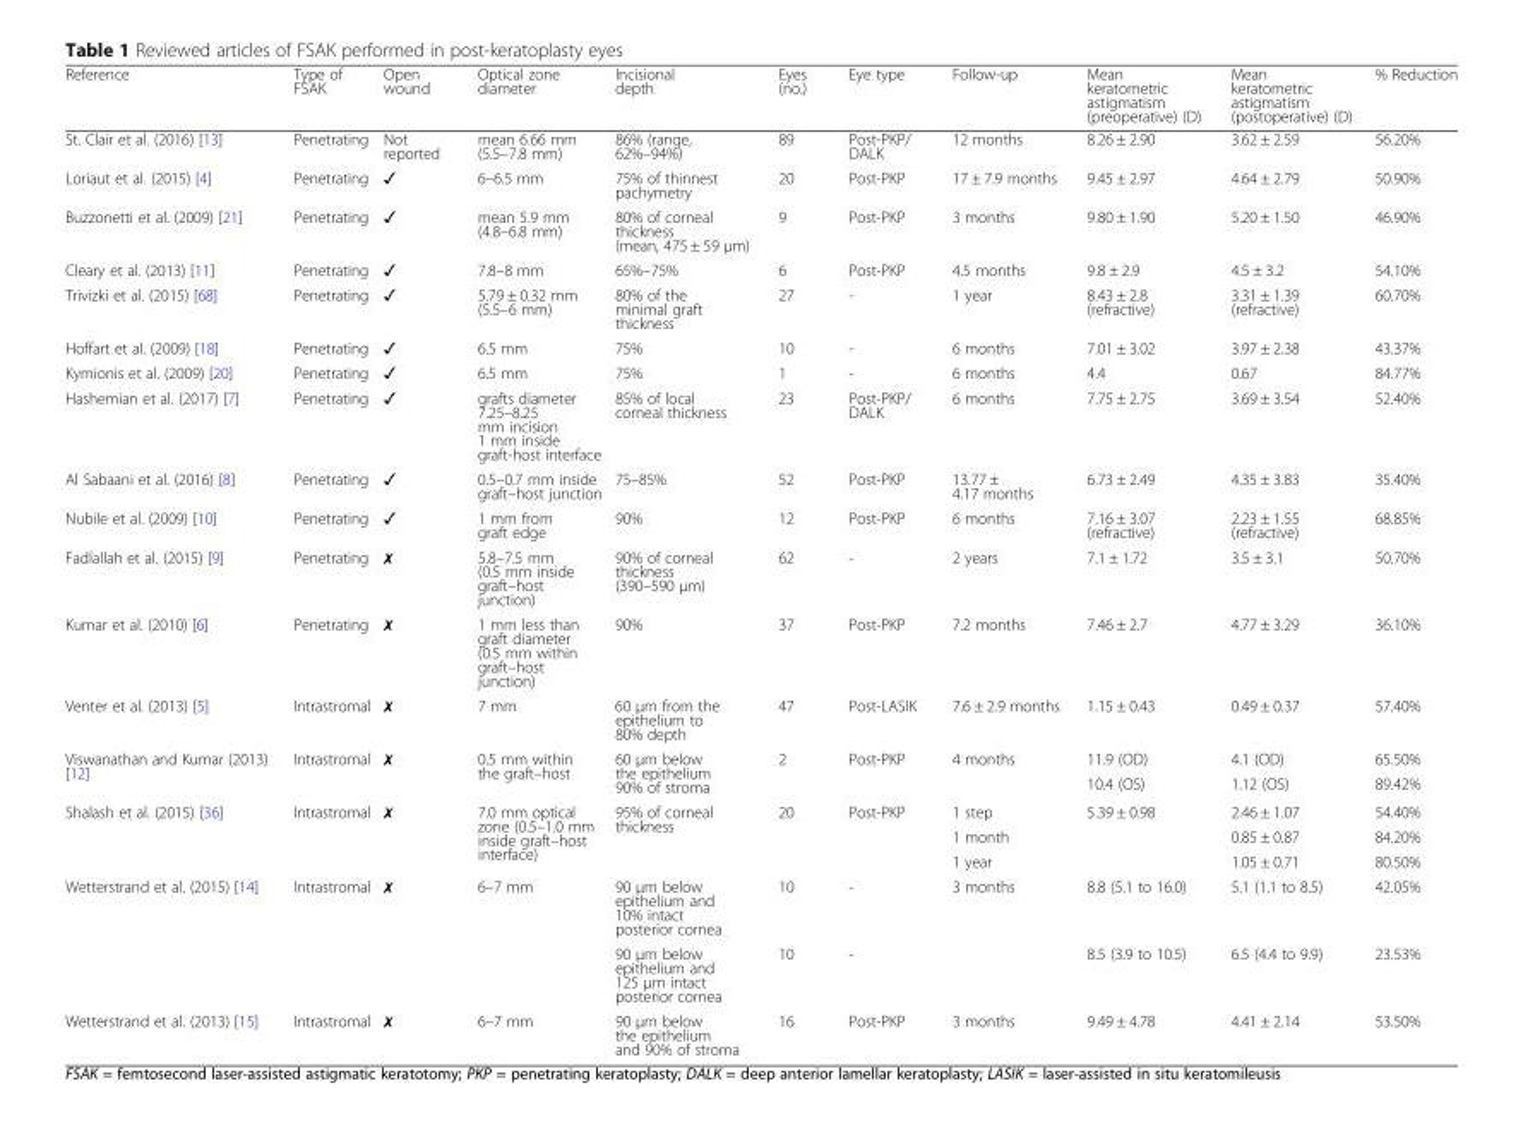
<table><thead><tr><td>Reference</td><td>Type of FSAK</td><td>Open wound</td><td>Optical zone diameter</td><td>Incisional depth</td><td>Eyes (no.)</td><td>Eye type</td><td>Follow-up</td><td>Mean keratometric astigmatism (preoperative) (D)</td><td>Mean keratometric astigmatism (postoperative) (D)</td><td>% Reduction</td></tr></thead><tbody><tr><td>St. Clair et al. (2016) [13]</td><td>Penetrating</td><td>Not reported</td><td>mean 6.66 mm (5.5–7.8 mm)</td><td>86% (range, 62%–94%)</td><td>89</td><td>Post-PKP/ DALK</td><td>12 months</td><td>8.26 ± 2.90</td><td>3.62 ± 2.59</td><td>56.20%</td></tr><tr><td>Loriaut et al. (2015) [4]</td><td>Penetrating</td><td>✓</td><td>6–6.5 mm</td><td>75% of thinnest pachymetry</td><td>20</td><td>Post-PKP</td><td>17 ± 7.9 months</td><td>9.45 ± 2.97</td><td>4.64 ± 2.79</td><td>50.90%</td></tr><tr><td>Buzzonetti et al. (2009) [21]</td><td>Penetrating</td><td>✓</td><td>mean 5.9 mm (4.8–6.8 mm)</td><td>80% of corneal thickness (mean, 475 ± 59 μm)</td><td>9</td><td>Post-PKP</td><td>3 months</td><td>9.80 ± 1.90</td><td>5.20 ± 1.50</td><td>46.90%</td></tr><tr><td>Cleary et al. (2013) [11]</td><td>Penetrating</td><td>✓</td><td>7.8–8 mm</td><td>65%–75%</td><td>6</td><td>Post-PKP</td><td>4.5 months</td><td>9.8 ± 2.9</td><td>4.5 ± 3.2</td><td>54.10%</td></tr><tr><td>Trivizki et al. (2015) [68]</td><td>Penetrating</td><td>✓</td><td>5.79 ± 0.32 mm (5.5–6 mm)</td><td>80% of the minimal graft thickness</td><td>27</td><td>-</td><td>1 year</td><td>8.43 ± 2.8 (refractive)</td><td>3.31 ± 1.39 (refractive)</td><td>60.70%</td></tr><tr><td>Hoffart et al. (2009) [18]</td><td>Penetrating</td><td>✓</td><td>6.5 mm</td><td>75%</td><td>10</td><td>-</td><td>6 months</td><td>7.01 ± 3.02</td><td>3.97 ± 2.38</td><td>43.37%</td></tr><tr><td>Kymionis et al. (2009) [20]</td><td>Penetrating</td><td>✓</td><td>6.5 mm</td><td>75%</td><td>1</td><td>-</td><td>6 months</td><td>4.4</td><td>0.67</td><td>84.77%</td></tr><tr><td>Hashemian et al. (2017) [7]</td><td>Penetrating</td><td>✓</td><td>grafts diameter 7.25–8.25 mm incision 1 mm inside graft-host interface</td><td>85% of local corneal thickness</td><td>23</td><td>Post-PKP/ DALK</td><td>6 months</td><td>7.75 ± 2.75</td><td>3.69 ± 3.54</td><td>52.40%</td></tr><tr><td>Al Sabaani et al. (2016) [8]</td><td>Penetrating</td><td>✓</td><td>0.5–0.7 mm inside graft–host junction</td><td>75–85%</td><td>52</td><td>Post-PKP</td><td>13.77 ± 4.17 months</td><td>6.73 ± 2.49</td><td>4.35 ± 3.83</td><td>35.40%</td></tr><tr><td>Nubile et al. (2009) [10]</td><td>Penetrating</td><td>✓</td><td>1 mm from graft edge</td><td>90%</td><td>12</td><td>Post-PKP</td><td>6 months</td><td>7.16 ± 3.07 (refractive)</td><td>2.23 ± 1.55 (refractive)</td><td>68.85%</td></tr><tr><td>Fadlallah et al. (2015) [9]</td><td>Penetrating</td><td>✗</td><td>5.8–7.5 mm (0.5 mm inside graft–host junction)</td><td>90% of corneal thickness (390–590 μm)</td><td>62</td><td>-</td><td>2 years</td><td>7.1 ± 1.72</td><td>3.5 ± 3.1</td><td>50.70%</td></tr><tr><td>Kumar et al. (2010) [6]</td><td>Penetrating</td><td>✗</td><td>1 mm less than graft diameter (0.5 mm within graft–host junction)</td><td>90%</td><td>37</td><td>Post-PKP</td><td>7.2 months</td><td>7.46 ± 2.7</td><td>4.77 ± 3.29</td><td>36.10%</td></tr><tr><td>Venter et al. (2013) [5]</td><td>Intrastromal</td><td>✗</td><td>7 mm</td><td>60 μm from the epithelium to 80% depth</td><td>47</td><td>Post-LASIK</td><td>7.6 ± 2.9 months</td><td>1.15 ± 0.43</td><td>0.49 ± 0.37</td><td>57.40%</td></tr><tr><td rowspan="2">Viswanathan and Kumar (2013) [12]</td><td rowspan="2">Intrastromal</td><td rowspan="2">✗</td><td rowspan="2">0.5 mm within the graft–host</td><td rowspan="2">60 μm below the epithelium 90% of stroma</td><td rowspan="2">2</td><td rowspan="2">Post-PKP</td><td rowspan="2">4 months</td><td>11.9 (OD)</td><td>4.1 (OD)</td><td>65.50%</td></tr><tr><td>10.4 (OS)</td><td>1.12 (OS)</td><td>89.42%</td></tr><tr><td rowspan="3">Shalash et al. (2015) [36]</td><td rowspan="3">Intrastromal</td><td rowspan="3">✗</td><td rowspan="3">7.0 mm optical zone (0.5–1.0 mm inside graft–host interface)</td><td rowspan="3">95% of corneal thickness</td><td rowspan="3">20</td><td rowspan="3">Post-PKP</td><td>1 step</td><td rowspan="3">5.39 ± 0.98</td><td>2.46 ± 1.07</td><td>54.40%</td></tr><tr><td>1 month</td><td>0.85 ± 0.87</td><td>84.20%</td></tr><tr><td>1 year</td><td>1.05 ± 0.71</td><td>80.50%</td></tr><tr><td rowspan="2">Wetterstrand et al. (2015) [14]</td><td rowspan="2">Intrastromal</td><td rowspan="2">✗</td><td rowspan="2">6–7 mm</td><td>90 μm below epithelium and 10% intact posterior cornea</td><td>10</td><td>-</td><td rowspan="2">3 months</td><td>8.8 (5.1 to 16.0)</td><td>5.1 (1.1 to 8.5)</td><td>42.05%</td></tr><tr><td>90 μm below epithelium and 125 μm intact posterior cornea</td><td>10</td><td>-</td><td>8.5 (3.9 to 10.5)</td><td>6.5 (4.4 to 9.9)</td><td>23.53%</td></tr><tr><td>Wetterstrand et al. (2013) [15]</td><td>Intrastromal</td><td>✗</td><td>6–7 mm</td><td>90 μm below the epithelium and 90% of stroma</td><td>16</td><td>Post-PKP</td><td>3 months</td><td>9.49 ± 4.78</td><td>4.41 ± 2.14</td><td>53.50%</td></tr></tbody></table>